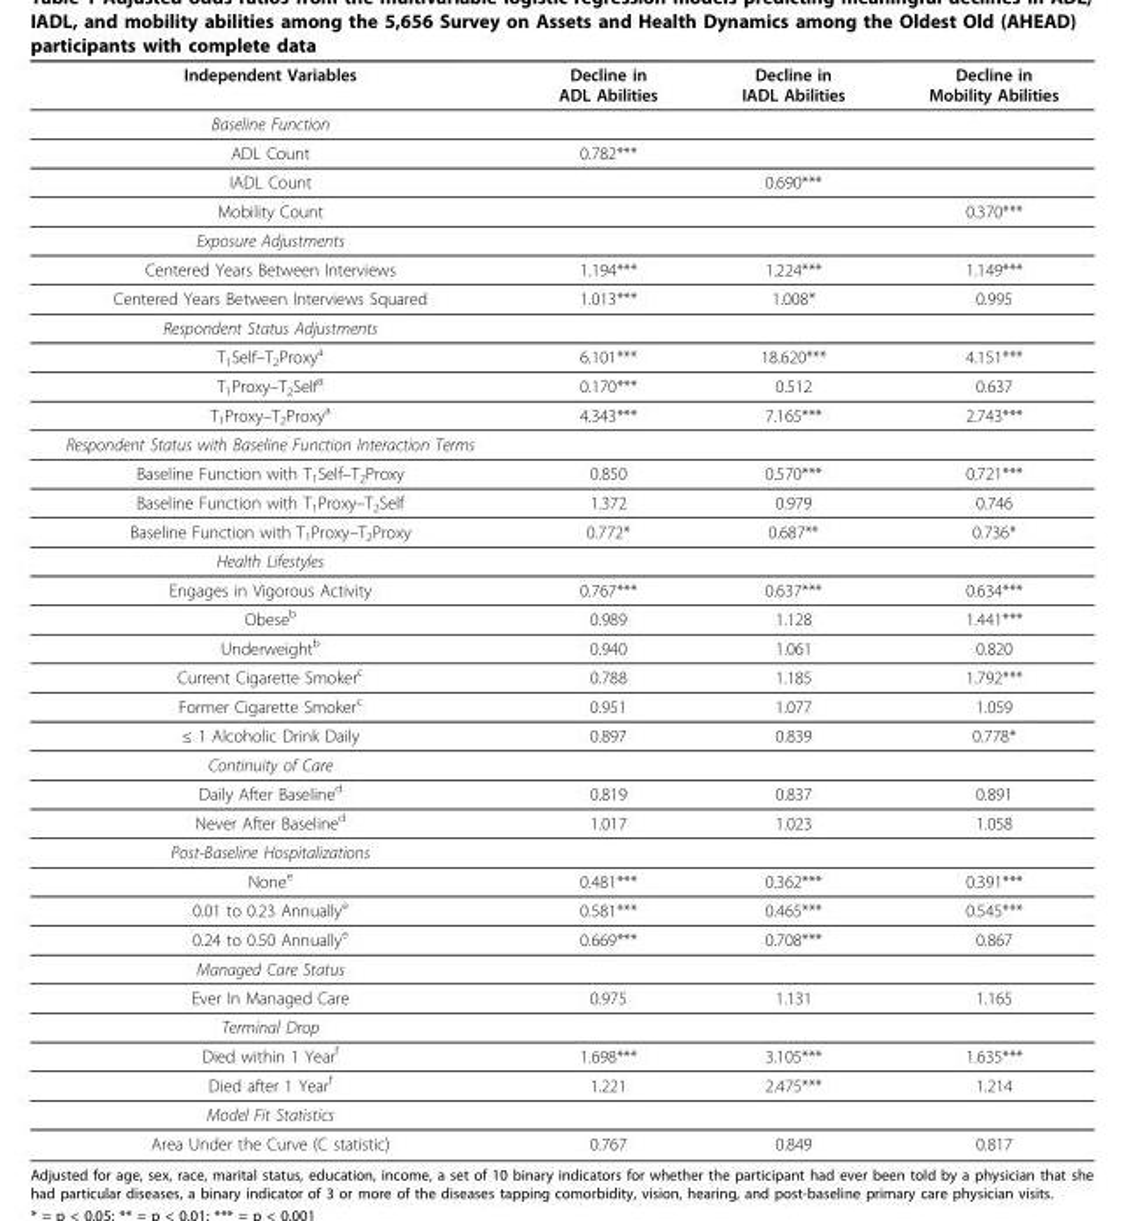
<table><thead><tr><td>Independent Variables</td><td>Decline in ADL Abilities</td><td>Decline in IADL Abilities</td><td>Decline in Mobility Abilities</td></tr></thead><tbody><tr><td colspan="4">Baseline Function</td></tr><tr><td>ADL Count</td><td>0.782***</td><td></td><td></td></tr><tr><td>IADL Count</td><td></td><td>0.690***</td><td></td></tr><tr><td>Mobility Count</td><td></td><td></td><td>0.370***</td></tr><tr><td colspan="4">Exposure Adjustments</td></tr><tr><td>Centered Years Between Interviews</td><td>1.194***</td><td>1.224***</td><td>1.149***</td></tr><tr><td>Centered Years Between Interviews Squared</td><td>1.013***</td><td>1.008*</td><td>0.995</td></tr><tr><td colspan="4">Respondent Status Adjustments</td></tr><tr><td>T1Self–T2Proxya</td><td>6.101***</td><td>18.620***</td><td>4.151***</td></tr><tr><td>T1Proxy–T2Selfa</td><td>0.170***</td><td>0.512</td><td>0.637</td></tr><tr><td>T1Proxy–T2Proxya</td><td>4.343***</td><td>7.165***</td><td>2.743***</td></tr><tr><td colspan="4">Respondent Status with Baseline Function Interaction Terms</td></tr><tr><td>Baseline Function with T1Self–T2Proxy</td><td>0.850</td><td>0.570***</td><td>0.721***</td></tr><tr><td>Baseline Function with T1Proxy–T2Self</td><td>1.372</td><td>0.979</td><td>0.746</td></tr><tr><td>Baseline Function with T1Proxy–T2Proxy</td><td>0.772*</td><td>0.687**</td><td>0.736*</td></tr><tr><td colspan="4">Health Lifestyles</td></tr><tr><td>Engages in Vigorous Activity</td><td>0.767***</td><td>0.637***</td><td>0.634***</td></tr><tr><td>Obeseb</td><td>0.989</td><td>1.128</td><td>1.441***</td></tr><tr><td>Underweightb</td><td>0.940</td><td>1.061</td><td>0.820</td></tr><tr><td>Current Cigarette Smokerc</td><td>0.788</td><td>1.185</td><td>1.792***</td></tr><tr><td>Former Cigarette Smokerc</td><td>0.951</td><td>1.077</td><td>1.059</td></tr><tr><td>≤ 1 Alcoholic Drink Daily</td><td>0.897</td><td>0.839</td><td>0.778*</td></tr><tr><td colspan="4">Continuity of Care</td></tr><tr><td>Daily After Baselined</td><td>0.819</td><td>0.837</td><td>0.891</td></tr><tr><td>Never After Baselined</td><td>1.017</td><td>1.023</td><td>1.058</td></tr><tr><td colspan="4">Post-Baseline Hospitalizations</td></tr><tr><td>Nonee</td><td>0.481***</td><td>0.362***</td><td>0.391***</td></tr><tr><td>0.01 to 0.23 Annuallye</td><td>0.581***</td><td>0.465***</td><td>0.545***</td></tr><tr><td>0.24 to 0.50 Annuallye</td><td>0.669***</td><td>0.708***</td><td>0.867</td></tr><tr><td colspan="4">Managed Care Status</td></tr><tr><td>Ever In Managed Care</td><td>0.975</td><td>1.131</td><td>1.165</td></tr><tr><td colspan="4">Terminal Drop</td></tr><tr><td>Died within 1 Yearf</td><td>1.698***</td><td>3.105***</td><td>1.635***</td></tr><tr><td>Died after 1 Yearf</td><td>1.221</td><td>2.475***</td><td>1.214</td></tr><tr><td colspan="4">Model Fit Statistics</td></tr><tr><td>Area Under the Curve (C statistic)</td><td>0.767</td><td>0.849</td><td>0.817</td></tr></tbody></table>